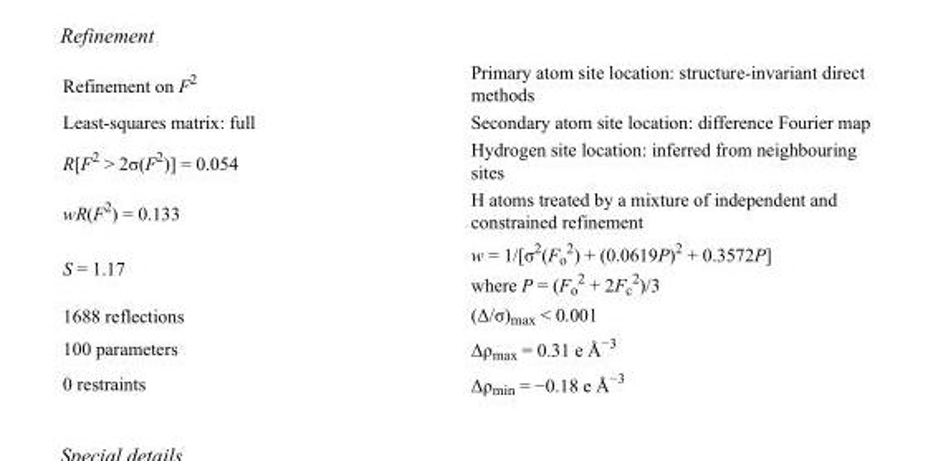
<table><tbody><tr><td>Refinement on F<sup>2</sup></td><td>Primary atom site location: structure-invariant direct methods</td></tr><tr><td>Least-squares matrix: full</td><td>Secondary atom site location: difference Fourier map</td></tr><tr><td>R[F<sup>2</sup> &gt; 2σ(F<sup>2</sup>)] = 0.054</td><td>Hydrogen site location: inferred from neighbouring sites</td></tr><tr><td>wR(F<sup>2</sup>) = 0.133</td><td>H atoms treated by a mixture of independent and constrained refinement</td></tr><tr><td>S = 1.17</td><td>w = 1/[σ<sup>2</sup>(F<sub>o</sub> <sup>2</sup>) + (0.0619P)<sup>2</sup> + 0.3572P] where P = (F<sub>o</sub> <sup>2</sup> + 2F<sub>c</sub> <sup>2</sup>)/3</td></tr><tr><td>1688 reflections</td><td>(Δ/σ)<sub>max</sub> &lt; 0.001</td></tr><tr><td>100 parameters</td><td>Δρ<sub>max</sub> = 0.31 e Å<sup>−3</sup></td></tr><tr><td>0 restraints</td><td>Δρ<sub>min</sub> = −0.18 e Å<sup>−3</sup></td></tr></tbody></table>